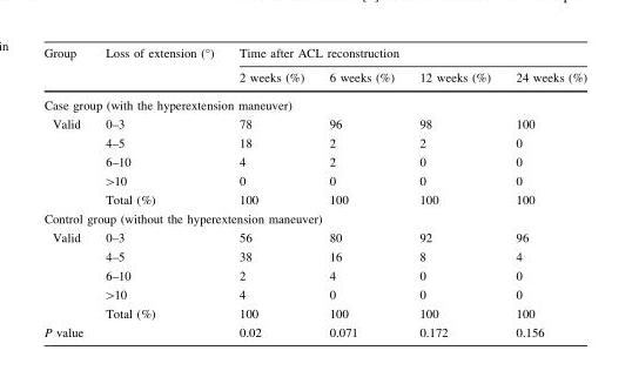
<table><thead><tr><td rowspan="2">Group</td><td rowspan="2">Loss of extension (°)</td><td colspan="4">Time after ACL reconstruction</td></tr><tr><td>2 weeks (%)</td><td>6 weeks (%)</td><td>12 weeks (%)</td><td>24 weeks (%)</td></tr></thead><tbody><tr><td colspan="6">Case group (with the hyperextension maneuver)</td></tr><tr><td rowspan="5">Valid</td><td>0–3</td><td>78</td><td>96</td><td>98</td><td>100</td></tr><tr><td>4–5</td><td>18</td><td>2</td><td>2</td><td>0</td></tr><tr><td>6–10</td><td>4</td><td>2</td><td>0</td><td>0</td></tr><tr><td>&gt;10</td><td>0</td><td>0</td><td>0</td><td>0</td></tr><tr><td>Total (%)</td><td>100</td><td>100</td><td>100</td><td>100</td></tr><tr><td colspan="6">Control group (without the hyperextension maneuver)</td></tr><tr><td rowspan="5">Valid</td><td>0–3</td><td>56</td><td>80</td><td>92</td><td>96</td></tr><tr><td>4–5</td><td>38</td><td>16</td><td>8</td><td>4</td></tr><tr><td>6–10</td><td>2</td><td>4</td><td>0</td><td>0</td></tr><tr><td>&gt;10</td><td>4</td><td>0</td><td>0</td><td>0</td></tr><tr><td>Total (%)</td><td>100</td><td>100</td><td>100</td><td>100</td></tr><tr><td colspan="2">P value</td><td>0.02</td><td>0.071</td><td>0.172</td><td>0.156</td></tr></tbody></table>